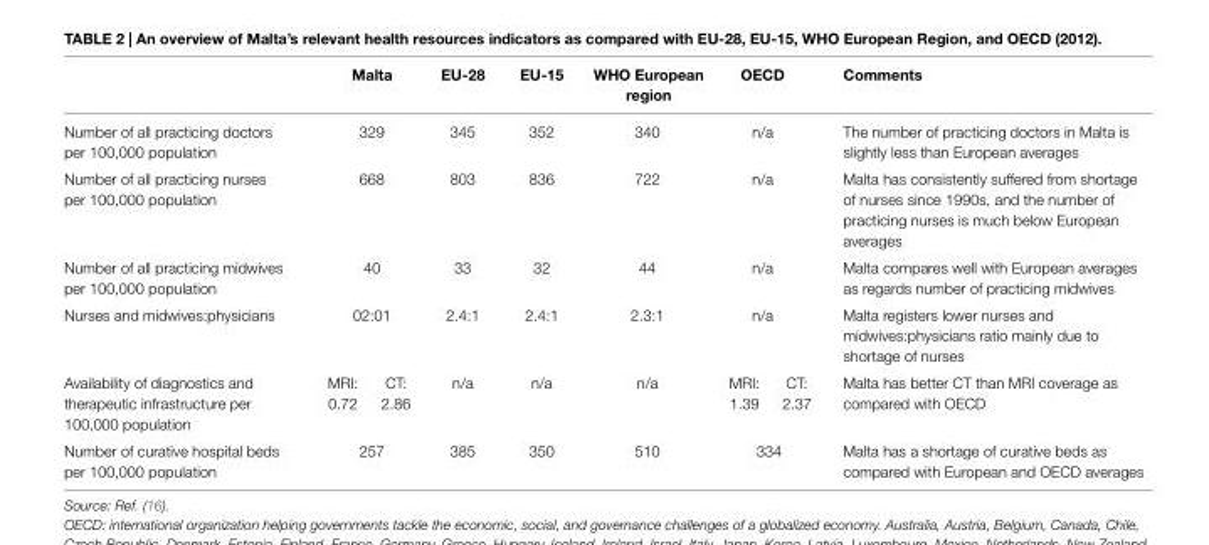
<table><thead><tr><td></td><td colspan="2">Malta</td><td>eU-28</td><td>eU-15</td><td>WhO european region</td><td colspan="2">OecD</td><td>comments</td></tr></thead><tbody><tr><td>Number of all practicing doctors per 100,000 population</td><td colspan="2">329</td><td>345</td><td>352</td><td>340</td><td colspan="2">n/a</td><td>The number of practicing doctors in Malta is slightly less than European averages</td></tr><tr><td>Number of all practicing nurses per 100,000 population</td><td colspan="2">668</td><td>803</td><td>836</td><td>722</td><td colspan="2">n/a</td><td>Malta has consistently suffered from shortage of nurses since 1990s, and the number of practicing nurses is much below European averages</td></tr><tr><td>Number of all practicing midwives per 100,000 population</td><td colspan="2">40</td><td>33</td><td>32</td><td>44</td><td colspan="2">n/a</td><td>Malta compares well with European averages as regards number of practicing midwives</td></tr><tr><td>Nurses and midwives:physicians</td><td colspan="2">02:01</td><td>2.4:1</td><td>2.4:1</td><td>2.3:1</td><td colspan="2">n/a</td><td>Malta registers lower nurses and midwives:physicians ratio mainly due to shortage of nurses</td></tr><tr><td>Availability of diagnostics and therapeutic infrastructure per 100,000 population</td><td>MRI: 0.72</td><td>CT: 2.86</td><td>n/a</td><td>n/a</td><td>n/a</td><td>MRI: 1.39</td><td>CT: 2.37</td><td>Malta has better CT than MRI coverage as compared with OECD</td></tr><tr><td>Number of curative hospital beds per 100,000 population</td><td colspan="2">257</td><td>385</td><td>350</td><td>510</td><td colspan="2">334</td><td>Malta has a shortage of curative beds as compared with European and OECD averages</td></tr></tbody></table>